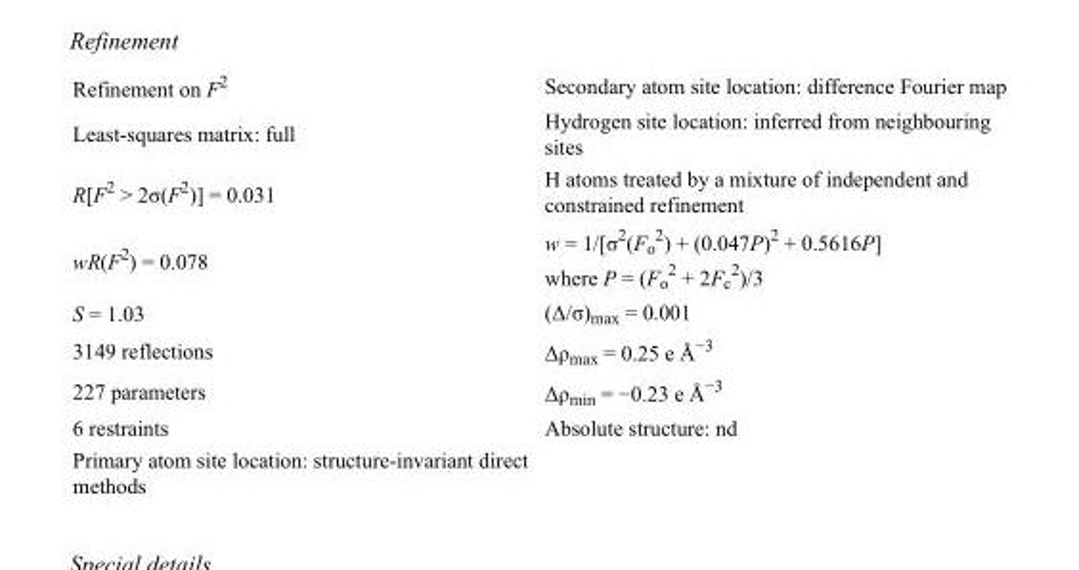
<table><tbody><tr><td>Refinement on F<sup>2</sup></td><td>Secondary atom site location: difference Fourier map</td></tr><tr><td>Least-squares matrix: full</td><td>Hydrogen site location: inferred from neighbouring sites</td></tr><tr><td>R[F<sup>2</sup> &gt; 2σ(F<sup>2</sup>)] = 0.031</td><td>H atoms treated by a mixture of independent and constrained refinement</td></tr><tr><td>wR(F<sup>2</sup>) = 0.078</td><td>w = 1/[σ<sup>2</sup>(F<sub>o</sub> <sup>2</sup>) + (0.047P)<sup>2</sup> + 0.5616P] where P = (F<sub>o</sub> <sup>2</sup> + 2F<sub>c</sub> <sup>2</sup>)/3</td></tr><tr><td>S = 1.03</td><td>(Δ/σ)<sub>max</sub> = 0.001</td></tr><tr><td>3149 reflections</td><td>Δρ<sub>max</sub> = 0.25 e Å<sup>−3</sup></td></tr><tr><td>227 parameters</td><td>Δρ<sub>min</sub> = −0.23 e Å<sup>−3</sup></td></tr><tr><td>6 restraints</td><td>Absolute structure: nd</td></tr><tr><td>Primary atom site location: structure-invariant direct methods</td><td></td></tr></tbody></table>